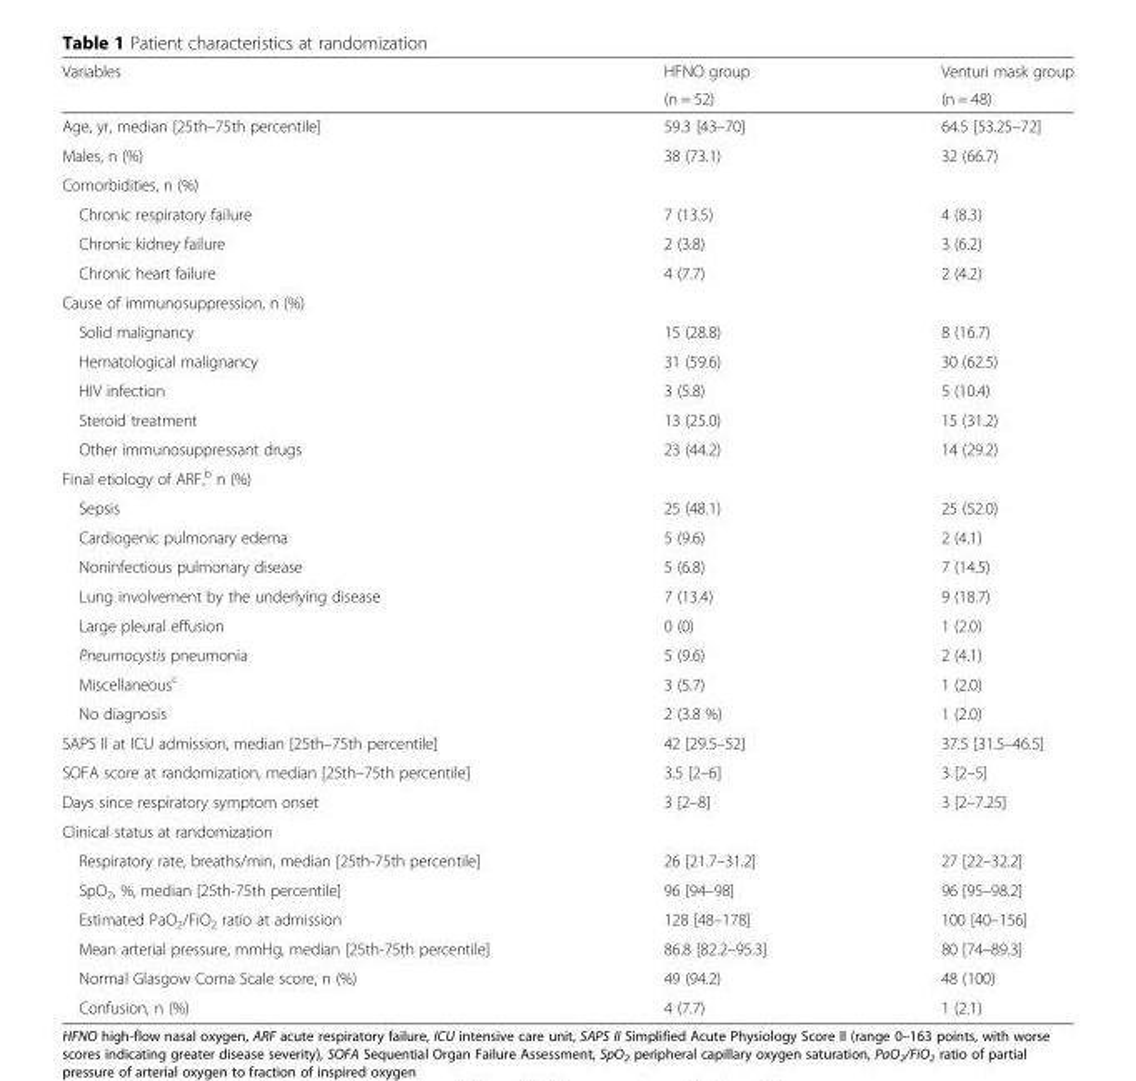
<table><thead><tr><td rowspan="2">Variables</td><td rowspan="2">HFNO group (n = 52)</td><td rowspan="2">Venturi mask group (n = 48)</td></tr><tr></tr></thead><tbody><tr><td>Age, yr, median [25th–75th percentile]</td><td>59.3 [43–70]</td><td>64.5 [53.25–72]</td></tr><tr><td>Males, n (%)</td><td>38 (73.1)</td><td>32 (66.7)</td></tr><tr><td colspan="3">Comorbidities, n (%)</td></tr><tr><td>Chronic respiratory failure</td><td>7 (13.5)</td><td>4 (8.3)</td></tr><tr><td>Chronic kidney failure</td><td>2 (3.8)</td><td>3 (6.2)</td></tr><tr><td>Chronic heart failure</td><td>4 (7.7)</td><td>2 (4.2)</td></tr><tr><td colspan="3">Cause of immunosuppression, n (%)</td></tr><tr><td>Solid malignancy</td><td>15 (28.8)</td><td>8 (16.7)</td></tr><tr><td>Hematological malignancy</td><td>31 (59.6)</td><td>30 (62.5)</td></tr><tr><td>HIV infection</td><td>3 (5.8)</td><td>5 (10.4)</td></tr><tr><td>Steroid treatment</td><td>13 (25.0)</td><td>15 (31.2)</td></tr><tr><td>Other immunosuppressant drugs</td><td>23 (44.2)</td><td>14 (29.2)</td></tr><tr><td colspan="3">Final etiology of ARF,<sup>b</sup> n (%)</td></tr><tr><td>Sepsis</td><td>25 (48.1)</td><td>25 (52.0)</td></tr><tr><td>Cardiogenic pulmonary edema</td><td>5 (9.6)</td><td>2 (4.1)</td></tr><tr><td>Noninfectious pulmonary disease</td><td>5 (6.8)</td><td>7 (14.5)</td></tr><tr><td>Lung involvement by the underlying disease</td><td>7 (13.4)</td><td>9 (18.7)</td></tr><tr><td>Large pleural effusion</td><td>0 (0)</td><td>1 (2.0)</td></tr><tr><td>Pneumocystis pneumonia</td><td>5 (9.6)</td><td>2 (4.1)</td></tr><tr><td>Miscellaneous<sup>c</sup></td><td>3 (5.7)</td><td>1 (2.0)</td></tr><tr><td>No diagnosis</td><td>2 (3.8 %)</td><td>1 (2.0)</td></tr><tr><td>SAPS II at ICU admission, median [25th–75th percentile]</td><td>42 [29.5–52]</td><td>37.5 [31.5–46.5]</td></tr><tr><td>SOFA score at randomization, median [25th–75th percentile]</td><td>3.5 [2–6]</td><td>3 [2–5]</td></tr><tr><td>Days since respiratory symptom onset</td><td>3 [2–8]</td><td>3 [2–7.25]</td></tr><tr><td colspan="3">Clinical status at randomization</td></tr><tr><td>Respiratory rate, breaths/min, median [25th-75th percentile]</td><td>26 [21.7–31.2]</td><td>27 [22–32.2]</td></tr><tr><td>SpO<sub>2</sub>, %, median [25th-75th percentile]</td><td>96 [94–98]</td><td>96 [95–98.2]</td></tr><tr><td>Estimated PaO<sub>2</sub>/FiO<sub>2</sub> ratio at admission</td><td>128 [48–178]</td><td>100 [40–156]</td></tr><tr><td>Mean arterial pressure, mmHg, median [25th-75th percentile]</td><td>86.8 [82.2–95.3]</td><td>80 [74–89.3]</td></tr><tr><td>Normal Glasgow Coma Scale score, n (%)</td><td>49 (94.2)</td><td>48 (100)</td></tr><tr><td>Confusion, n (%)</td><td>4 (7.7)</td><td>1 (2.1)</td></tr></tbody></table>